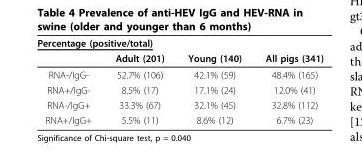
<table><thead><tr><td colspan="4">Percentage (positive/total)</td></tr><tr><td></td><td>Adult (201)</td><td>Young (140)</td><td>All pigs (341)</td></tr></thead><tbody><tr><td>RNA-/IgG-</td><td>52.7% (106)</td><td>42.1% (59)</td><td>48.4% (165)</td></tr><tr><td>RNA+/IgG-</td><td>8.5% (17)</td><td>17.1% (24)</td><td>12.0% (41)</td></tr><tr><td>RNA-/IgG+</td><td>33.3% (67)</td><td>32.1% (45)</td><td>32.8% (112)</td></tr><tr><td>RNA+/IgG+</td><td>5.5% (11)</td><td>8.6% (12)</td><td>6.7% (23)</td></tr></tbody></table>